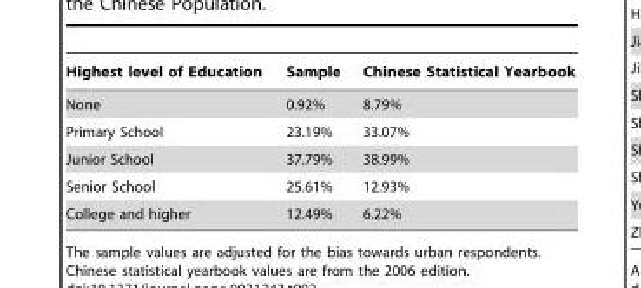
<table><thead><tr><td>Highest level of Education</td><td>Sample</td><td>Chinese Statistical Yearbook</td></tr></thead><tbody><tr><td>None</td><td>0.92%</td><td>8.79%</td></tr><tr><td>Primary School</td><td>23.19%</td><td>33.07%</td></tr><tr><td>Junior School</td><td>37.79%</td><td>38.99%</td></tr><tr><td>Senior School</td><td>25.61%</td><td>12.93%</td></tr><tr><td>College and higher</td><td>12.49%</td><td>6.22%</td></tr></tbody></table>